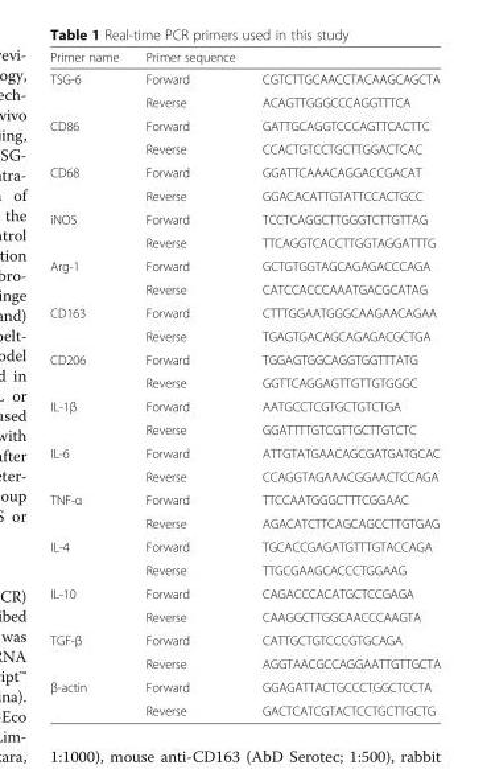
<table><thead><tr><td>Primer name</td><td>Primer sequence</td><td></td></tr></thead><tbody><tr><td rowspan="2">TSG-6</td><td>Forward</td><td>CGTCTTGCAACCTACAAGCAGCTA</td></tr><tr><td>Reverse</td><td>ACAGTTGGGCCCAGGTTTCA</td></tr><tr><td rowspan="2">CD86</td><td>Forward</td><td>GATTGCAGGTCCCAGTTCACTTC</td></tr><tr><td>Reverse</td><td>CCACTGTCCTGCTTGGACTCAC</td></tr><tr><td rowspan="2">CD68</td><td>Forward</td><td>GGATTCAAACAGGACCGACAT</td></tr><tr><td>Reverse</td><td>GGACACATTGTATTCCACTGCC</td></tr><tr><td rowspan="2">iNOS</td><td>Forward</td><td>TCCTCAGGCTTGGGTCTTGTTAG</td></tr><tr><td>Reverse</td><td>TTCAGGTCACCTTGGTAGGATTTG</td></tr><tr><td rowspan="2">Arg-1</td><td>Forward</td><td>GCTGTGGTAGCAGAGACCCAGA</td></tr><tr><td>Reverse</td><td>CATCCACCCAAATGACGCATAG</td></tr><tr><td rowspan="2">CD163</td><td>Forward</td><td>CTTTGGAATGGGCAAGAACAGAA</td></tr><tr><td>Reverse</td><td>TGAGTGACAGCAGAGACGCTGA</td></tr><tr><td rowspan="2">CD206</td><td>Forward</td><td>TGGAGTGGCAGGTGGTTTATG</td></tr><tr><td>Reverse</td><td>GGTTCAGGAGTTGTTGTGGGC</td></tr><tr><td rowspan="2">IL-1β</td><td>Forward</td><td>AATGCCTCGTGCTGTCTGA</td></tr><tr><td>Reverse</td><td>GGATTTTGTCGTTGCTTGTCTC</td></tr><tr><td rowspan="2">IL-6</td><td>Forward</td><td>ATTGTATGAACAGCGATGATGCAC</td></tr><tr><td>Reverse</td><td>CCAGGTAGAAACGGAACTCCAGA</td></tr><tr><td rowspan="2">TNF-α</td><td>Forward</td><td>TTCCAATGGGCTTTCGGAAC</td></tr><tr><td>Reverse</td><td>AGACATCTTCAGCAGCCTTGTGAG</td></tr><tr><td rowspan="2">IL-4</td><td>Forward</td><td>TGCACCGAGATGTTTGTACCAGA</td></tr><tr><td>Reverse</td><td>TTGCGAAGCACCCTGGAAG</td></tr><tr><td rowspan="2">IL-10</td><td>Forward</td><td>CAGACCCACATGCTCCGAGA</td></tr><tr><td>Reverse</td><td>CAAGGCTTGGCAACCCAAGTA</td></tr><tr><td rowspan="2">TGF-β</td><td>Forward</td><td>CATTGCTGTCCCGTGCAGA</td></tr><tr><td>Reverse</td><td>AGGTAACGCCAGGAATTGTTGCTA</td></tr><tr><td rowspan="2">β-actin</td><td>Forward</td><td>GGAGATTACTGCCCTGGCTCCTA</td></tr><tr><td>Reverse</td><td>GACTCATCGTACTCCTGCTTGCTG</td></tr></tbody></table>